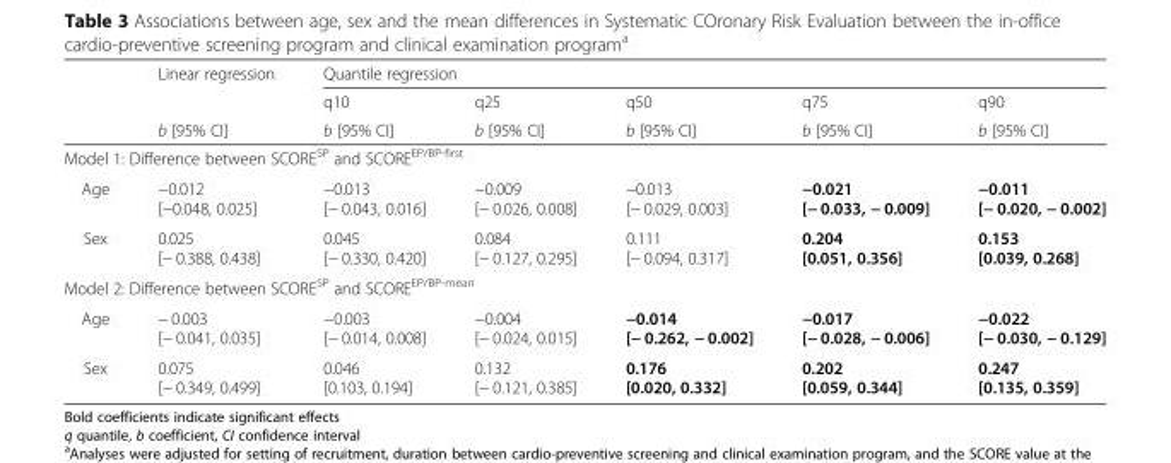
<table><thead><tr><td rowspan="3"></td><td rowspan="3">Linear regression b [95% CI]</td><td colspan="5">Quantile regression</td></tr><tr><td rowspan="2">q10 b [95% CI]</td><td rowspan="2">q25 b [95% CI]</td><td rowspan="2">q50 b [95% CI]</td><td rowspan="2">q75 b [95% CI]</td><td rowspan="2">q90 b [95% CI]</td></tr><tr></tr></thead><tbody><tr><td colspan="7">Model 1: Difference between SCORE<sup>SP</sup> and SCORE<sup>EP/BP-first</sup></td></tr><tr><td>Age</td><td>−0.012 [−0.048, 0.025]</td><td>−0.013 [− 0.043, 0.016]</td><td>−0.009 [− 0.026, 0.008]</td><td>−0.013 [− 0.029, 0.003]</td><td>−0.021 [− 0.033, − 0.009]</td><td>−0.011 [− 0.020, − 0.002]</td></tr><tr><td>Sex</td><td>0.025 [− 0.388, 0.438]</td><td>0.045 [− 0.330, 0.420]</td><td>0.084 [− 0.127, 0.295]</td><td>0.111 [− 0.094, 0.317]</td><td>0.204 [0.051, 0.356]</td><td>0.153 [0.039, 0.268]</td></tr><tr><td colspan="7">Model 2: Difference between SCORE<sup>SP</sup> and SCORE<sup>EP/BP-mean</sup></td></tr><tr><td>Age</td><td>− 0.003 [− 0.041, 0.035]</td><td>−0.003 [− 0.014, 0.008]</td><td>−0.004 [− 0.024, 0.015]</td><td>−0.014 [− 0.262, − 0.002]</td><td>−0.017 [− 0.028, − 0.006]</td><td>−0.022 [− 0.030, − 0.129]</td></tr><tr><td>Sex</td><td>0.075 [− 0.349, 0.499]</td><td>0.046 [0.103, 0.194]</td><td>0.132 [− 0.121, 0.385]</td><td>0.176 [0.020, 0.332]</td><td>0.202 [0.059, 0.344]</td><td>0.247 [0.135, 0.359]</td></tr></tbody></table>